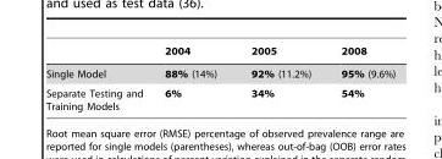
<table><thead><tr><td></td><td>2004</td><td>2005</td><td>2008</td></tr></thead><tbody><tr><td>Single Model</td><td>88% (14%)</td><td>92% (11.2%)</td><td>95% (9.6%)</td></tr><tr><td>Separate Testing and Training Models</td><td>6%</td><td>34%</td><td>54%</td></tr></tbody></table>